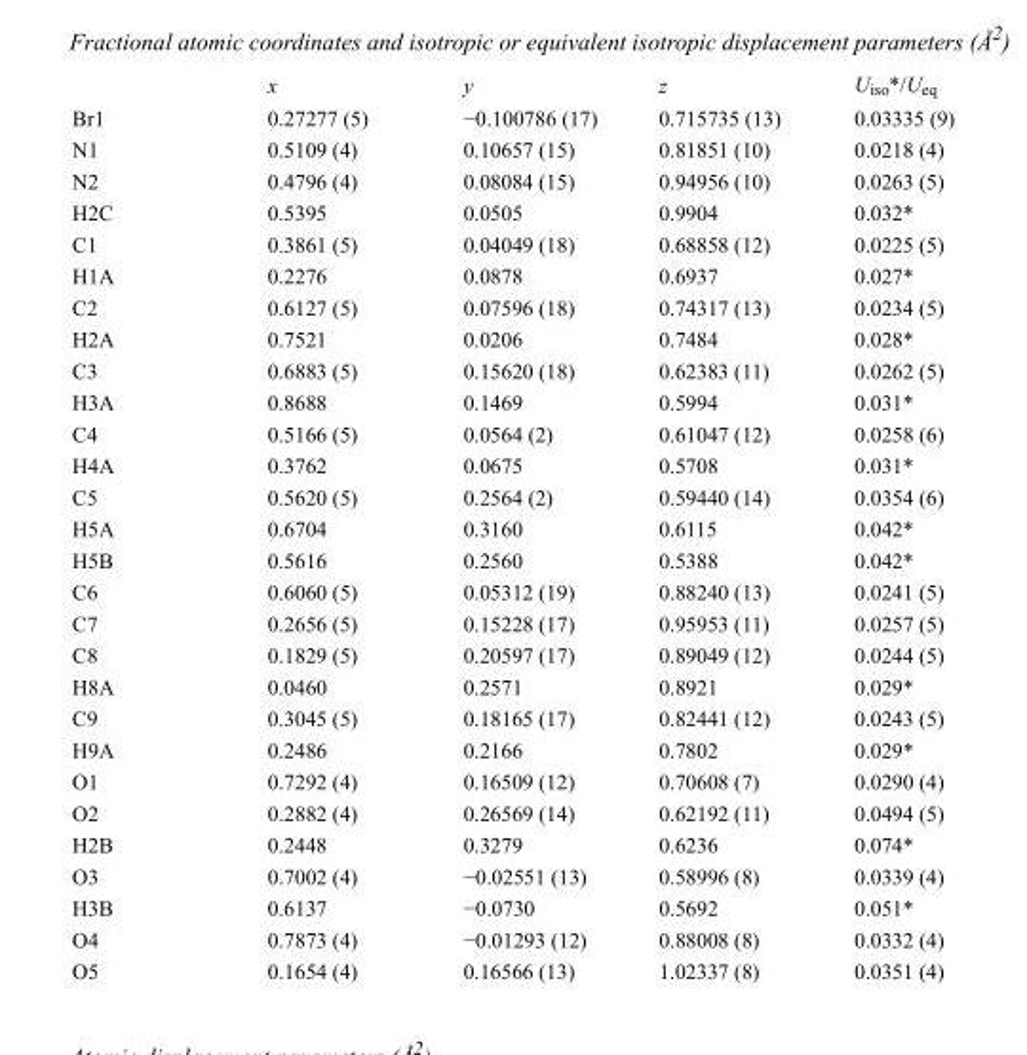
<table><thead><tr><td></td><td>x</td><td>y</td><td>z</td><td>U<sub>iso</sub>*/U<sub>eq</sub></td></tr></thead><tbody><tr><td>Br1</td><td>0.27277 (5)</td><td>−0.100786 (17)</td><td>0.715735 (13)</td><td>0.03335 (9)</td></tr><tr><td>N1</td><td>0.5109 (4)</td><td>0.10657 (15)</td><td>0.81851 (10)</td><td>0.0218 (4)</td></tr><tr><td>N2</td><td>0.4796 (4)</td><td>0.08084 (15)</td><td>0.94956 (10)</td><td>0.0263 (5)</td></tr><tr><td>H2C</td><td>0.5395</td><td>0.0505</td><td>0.9904</td><td>0.032*</td></tr><tr><td>C1</td><td>0.3861 (5)</td><td>0.04049 (18)</td><td>0.68858 (12)</td><td>0.0225 (5)</td></tr><tr><td>H1A</td><td>0.2276</td><td>0.0878</td><td>0.6937</td><td>0.027*</td></tr><tr><td>C2</td><td>0.6127 (5)</td><td>0.07596 (18)</td><td>0.74317 (13)</td><td>0.0234 (5)</td></tr><tr><td>H2A</td><td>0.7521</td><td>0.0206</td><td>0.7484</td><td>0.028*</td></tr><tr><td>C3</td><td>0.6883 (5)</td><td>0.15620 (18)</td><td>0.62383 (11)</td><td>0.0262 (5)</td></tr><tr><td>H3A</td><td>0.8688</td><td>0.1469</td><td>0.5994</td><td>0.031*</td></tr><tr><td>C4</td><td>0.5166 (5)</td><td>0.0564 (2)</td><td>0.61047 (12)</td><td>0.0258 (6)</td></tr><tr><td>H4A</td><td>0.3762</td><td>0.0675</td><td>0.5708</td><td>0.031*</td></tr><tr><td>C5</td><td>0.5620 (5)</td><td>0.2564 (2)</td><td>0.59440 (14)</td><td>0.0354 (6)</td></tr><tr><td>H5A</td><td>0.6704</td><td>0.3160</td><td>0.6115</td><td>0.042*</td></tr><tr><td>H5B</td><td>0.5616</td><td>0.2560</td><td>0.5388</td><td>0.042*</td></tr><tr><td>C6</td><td>0.6060 (5)</td><td>0.05312 (19)</td><td>0.88240 (13)</td><td>0.0241 (5)</td></tr><tr><td>C7</td><td>0.2656 (5)</td><td>0.15228 (17)</td><td>0.95953 (11)</td><td>0.0257 (5)</td></tr><tr><td>C8</td><td>0.1829 (5)</td><td>0.20597 (17)</td><td>0.89049 (12)</td><td>0.0244 (5)</td></tr><tr><td>H8A</td><td>0.0460</td><td>0.2571</td><td>0.8921</td><td>0.029*</td></tr><tr><td>C9</td><td>0.3045 (5)</td><td>0.18165 (17)</td><td>0.82441 (12)</td><td>0.0243 (5)</td></tr><tr><td>H9A</td><td>0.2486</td><td>0.2166</td><td>0.7802</td><td>0.029*</td></tr><tr><td>O1</td><td>0.7292 (4)</td><td>0.16509 (12)</td><td>0.70608 (7)</td><td>0.0290 (4)</td></tr><tr><td>O2</td><td>0.2882 (4)</td><td>0.26569 (14)</td><td>0.62192 (11)</td><td>0.0494 (5)</td></tr><tr><td>H2B</td><td>0.2448</td><td>0.3279</td><td>0.6236</td><td>0.074*</td></tr><tr><td>O3</td><td>0.7002 (4)</td><td>−0.02551 (13)</td><td>0.58996 (8)</td><td>0.0339 (4)</td></tr><tr><td>H3B</td><td>0.6137</td><td>−0.0730</td><td>0.5692</td><td>0.051*</td></tr><tr><td>O4</td><td>0.7873 (4)</td><td>−0.01293 (12)</td><td>0.88008 (8)</td><td>0.0332 (4)</td></tr><tr><td>O5</td><td>0.1654 (4)</td><td>0.16566 (13)</td><td>1.02337 (8)</td><td>0.0351 (4)</td></tr></tbody></table>